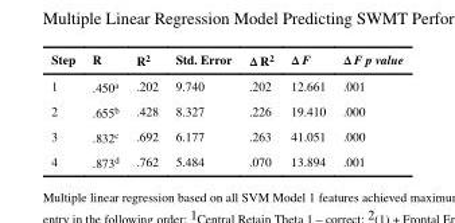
<table><thead><tr><td>Step</td><td>R</td><td>R<sup>2</sup></td><td>Std. Error</td><td>Δ R<sup>2</sup></td><td>Δ F</td><td>Δ F p value</td></tr></thead><tbody><tr><td>1</td><td>.450<sup>a</sup></td><td>.202</td><td>9.740</td><td>.202</td><td>12.661</td><td>.001</td></tr><tr><td>2</td><td>.655<sup>b</sup></td><td>.428</td><td>8.327</td><td>.226</td><td>19.410</td><td>.000</td></tr><tr><td>3</td><td>.832<sup>c</sup></td><td>.692</td><td>6.177</td><td>.263</td><td>41.051</td><td>.000</td></tr><tr><td>4</td><td>.873<sup>d</sup></td><td>.762</td><td>5.484</td><td>.070</td><td>13.894</td><td>.001</td></tr></tbody></table>